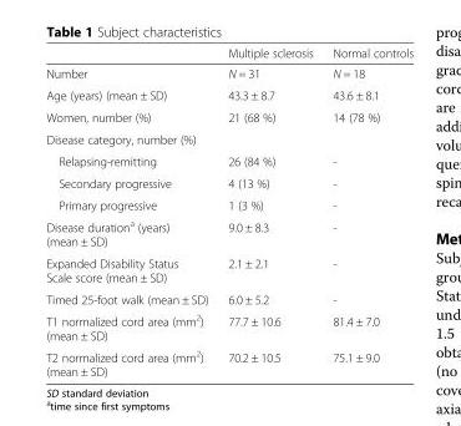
<table><thead><tr><td></td><td>Multiple sclerosis</td><td>Normal controls</td></tr></thead><tbody><tr><td>Number</td><td>N = 31</td><td>N = 18</td></tr><tr><td>Age (years) (mean ± SD)</td><td>43.3 ± 8.7</td><td>43.6 ± 8.1</td></tr><tr><td>Women, number (%)</td><td>21 (68 %)</td><td>14 (78 %)</td></tr><tr><td colspan="3">Disease category, number (%)</td></tr><tr><td>Relapsing-remitting</td><td>26 (84 %)</td><td>-</td></tr><tr><td>Secondary progressive</td><td>4 (13 %)</td><td>-</td></tr><tr><td>Primary progressive</td><td>1 (3 %)</td><td>-</td></tr><tr><td>Disease duration<sup>a</sup> (years) (mean ± SD)</td><td>9.0 ± 8.3</td><td>-</td></tr><tr><td>Expanded Disability Status Scale score (mean ± SD)</td><td>2.1 ± 2.1</td><td>-</td></tr><tr><td>Timed 25-foot walk (mean ± SD)</td><td>6.0 ± 5.2</td><td>-</td></tr><tr><td>T1 normalized cord area (mm<sup>2</sup>) (mean ± SD)</td><td>77.7 ± 10.6</td><td>81.4 ± 7.0</td></tr><tr><td>T2 normalized cord area (mm<sup>2</sup>) (mean ± SD)</td><td>70.2 ± 10.5</td><td>75.1 ± 9.0</td></tr></tbody></table>